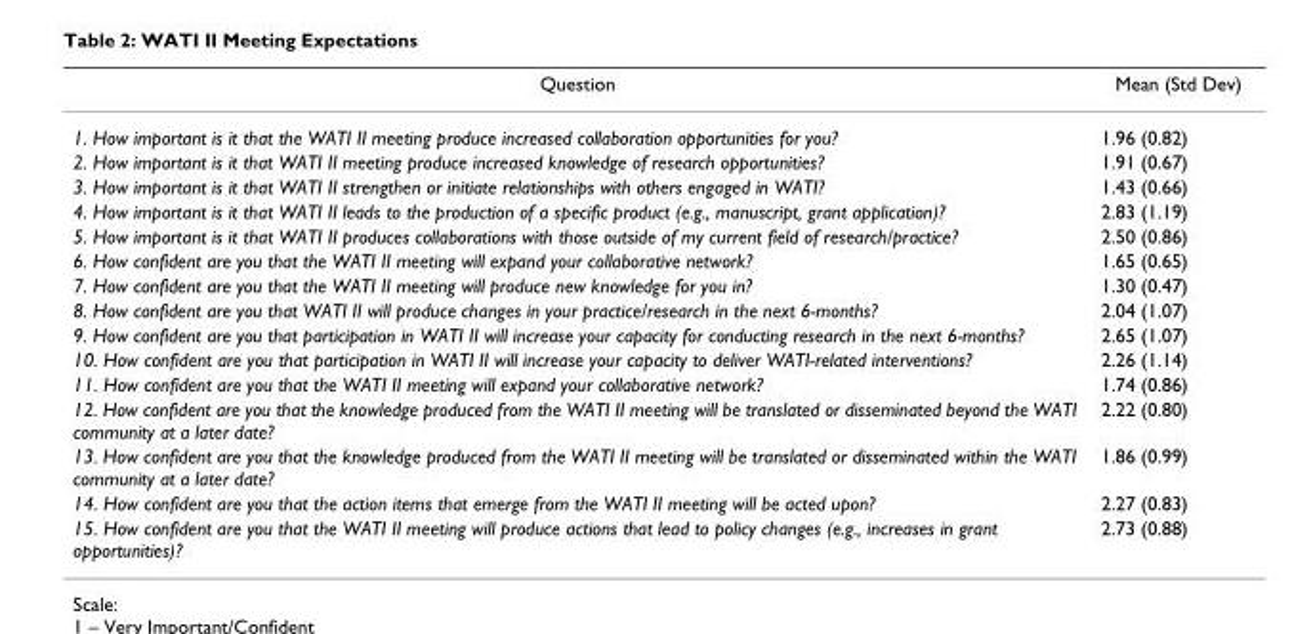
<table><thead><tr><td>Question</td><td>Mean (Std Dev)</td></tr></thead><tbody><tr><td>1. How important is it that the WATI II meeting produce increased collaboration opportunities for you?</td><td>1.96 (0.82)</td></tr><tr><td>2. How important is it that WATI II meeting produce increased knowledge of research opportunities?</td><td>1.91 (0.67)</td></tr><tr><td>3. How important is it that WATI II strengthen or initiate relationships with others engaged in WATI?</td><td>1.43 (0.66)</td></tr><tr><td>4. How important is it that WATI II leads to the production of a specific product (e.g., manuscript, grant application)?</td><td>2.83 (1.19)</td></tr><tr><td>5. How important is it that WATI II produces collaborations with those outside of my current field of research/practice?</td><td>2.50 (0.86)</td></tr><tr><td>6. How confident are you that the WATI II meeting will expand your collaborative network?</td><td>1.65 (0.65)</td></tr><tr><td>7. How confident are you that the WATI II meeting will produce new knowledge for you in?</td><td>1.30 (0.47)</td></tr><tr><td>8. How confident are you that WATI II will produce changes in your practice/research in the next 6-months?</td><td>2.04 (1.07)</td></tr><tr><td>9. How confident are you that participation in WATI II will increase your capacity for conducting research in the next 6-months?</td><td>2.65 (1.07)</td></tr><tr><td>10. How confident are you that participation in WATI II will increase your capacity to deliver WATI-related interventions?</td><td>2.26 (1.14)</td></tr><tr><td>11. How confident are you that the WATI II meeting will expand your collaborative network?</td><td>1.74 (0.86)</td></tr><tr><td>12. How confident are you that the knowledge produced from the WATI II meeting will be translated or disseminated beyond the WATI community at a later date?</td><td>2.22 (0.80)</td></tr><tr><td>13. How confident are you that the knowledge produced from the WATI II meeting will be translated or disseminated within the WATI community at a later date?</td><td>1.86 (0.99)</td></tr><tr><td>14. How confident are you that the action items that emerge from the WATI II meeting will be acted upon?</td><td>2.27 (0.83)</td></tr><tr><td>15. How confident are you that the WATI II meeting will produce actions that lead to policy changes (e.g., increases in grant opportunities)?</td><td>2.73 (0.88)</td></tr></tbody></table>